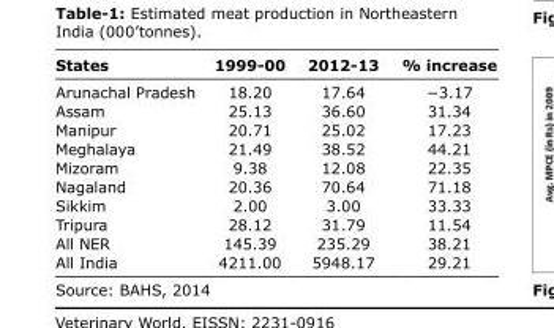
<table><thead><tr><td>States</td><td>1999-00</td><td>2012-13</td><td>% increase</td></tr></thead><tbody><tr><td>Arunachal Pradesh</td><td>18.20</td><td>17.64</td><td>−3.17</td></tr><tr><td>Assam</td><td>25.13</td><td>36.60</td><td>31.34</td></tr><tr><td>Manipur</td><td>20.71</td><td>25.02</td><td>17.23</td></tr><tr><td>Meghalaya</td><td>21.49</td><td>38.52</td><td>44.21</td></tr><tr><td>Mizoram</td><td>9.38</td><td>12.08</td><td>22.35</td></tr><tr><td>Nagaland</td><td>20.36</td><td>70.64</td><td>71.18</td></tr><tr><td>Sikkim</td><td>2.00</td><td>3.00</td><td>33.33</td></tr><tr><td>Tripura</td><td>28.12</td><td>31.79</td><td>11.54</td></tr><tr><td>All NER</td><td>145.39</td><td>235.29</td><td>38.21</td></tr><tr><td>All India</td><td>4211.00</td><td>5948.17</td><td>29.21</td></tr></tbody></table>